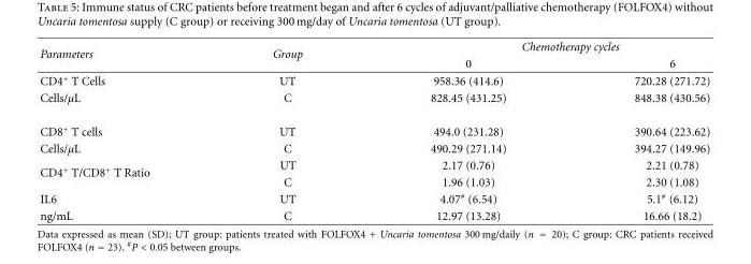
<table><thead><tr><td rowspan="2">Parameters</td><td rowspan="2">Group</td><td colspan="2">Chemotherapy cycles</td></tr><tr><td>0</td><td>6</td></tr></thead><tbody><tr><td>CD4<sup>+</sup> T Cells</td><td>UT</td><td>958.36 (414.6)</td><td>720.28 (271.72)</td></tr><tr><td>Cells/μL</td><td>C</td><td>828.45 (431.25)</td><td>848.38 (430.56)</td></tr><tr><td>CD8<sup>+</sup> T cells</td><td>UT</td><td>494.0 (231.28)</td><td>390.64 (223.62)</td></tr><tr><td>Cells/μL</td><td>C</td><td>490.29 (271.14)</td><td>394.27 (149.96)</td></tr><tr><td rowspan="2">CD4<sup>+</sup> T/CD8<sup>+</sup> T Ratio</td><td>UT</td><td>2.17 (0.76)</td><td>2.21 (0.78)</td></tr><tr><td>C</td><td>1.96 (1.03)</td><td>2.30 (1.08)</td></tr><tr><td>IL6</td><td>UT</td><td>4.07<sup>#</sup> (6.54)</td><td>5.1<sup>#</sup> (6.12)</td></tr><tr><td>ng/mL</td><td>C</td><td>12.97 (13.28)</td><td>16.66 (18.2)</td></tr></tbody></table>